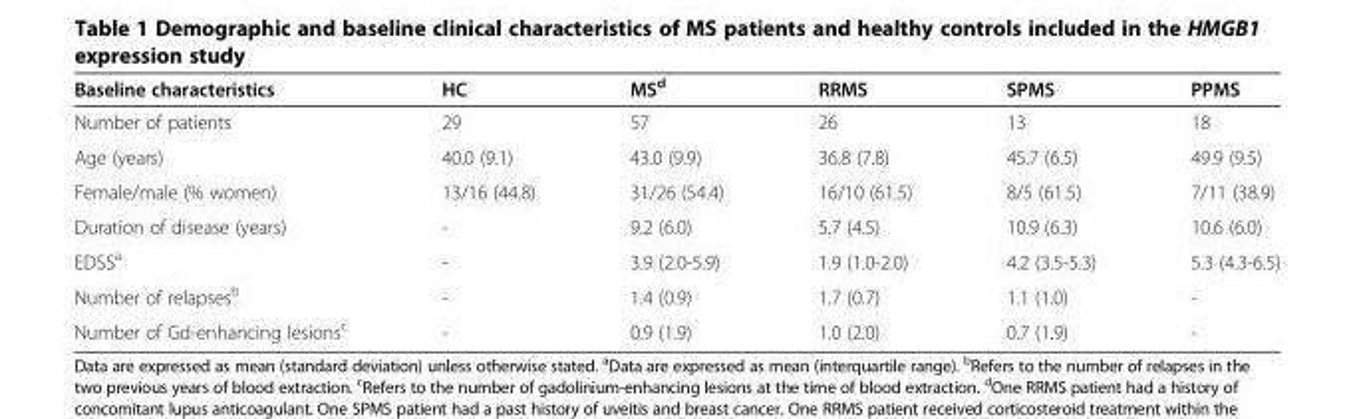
<table><thead><tr><td>Baseline characteristics</td><td>HC</td><td>MS<sup>d</sup></td><td>RRMS</td><td>SPMS</td><td>PPMS</td></tr></thead><tbody><tr><td>Number of patients</td><td>29</td><td>57</td><td>26</td><td>13</td><td>18</td></tr><tr><td>Age (years)</td><td>40.0 (9.1)</td><td>43.0 (9.9)</td><td>36.8 (7.8)</td><td>45.7 (6.5)</td><td>49.9 (9.5)</td></tr><tr><td>Female/male (% women)</td><td>13/16 (44.8)</td><td>31/26 (54.4)</td><td>16/10 (61.5)</td><td>8/5 (61.5)</td><td>7/11 (38.9)</td></tr><tr><td>Duration of disease (years)</td><td>-</td><td>9.2 (6.0)</td><td>5.7 (4.5)</td><td>10.9 (6.3)</td><td>10.6 (6.0)</td></tr><tr><td>EDSS<sup>a</sup></td><td>-</td><td>3.9 (2.0-5.9)</td><td>1.9 (1.0-2.0)</td><td>4.2 (3.5-5.3)</td><td>5.3 (4.3-6.5)</td></tr><tr><td>Number of relapses<sup>b</sup></td><td>-</td><td>1.4 (0.9)</td><td>1.7 (0.7)</td><td>1.1 (1.0)</td><td>-</td></tr><tr><td>Number of Gd-enhancing lesions<sup>c</sup></td><td>-</td><td>0.9 (1.9)</td><td>1.0 (2.0)</td><td>0.7 (1.9)</td><td>-</td></tr></tbody></table>